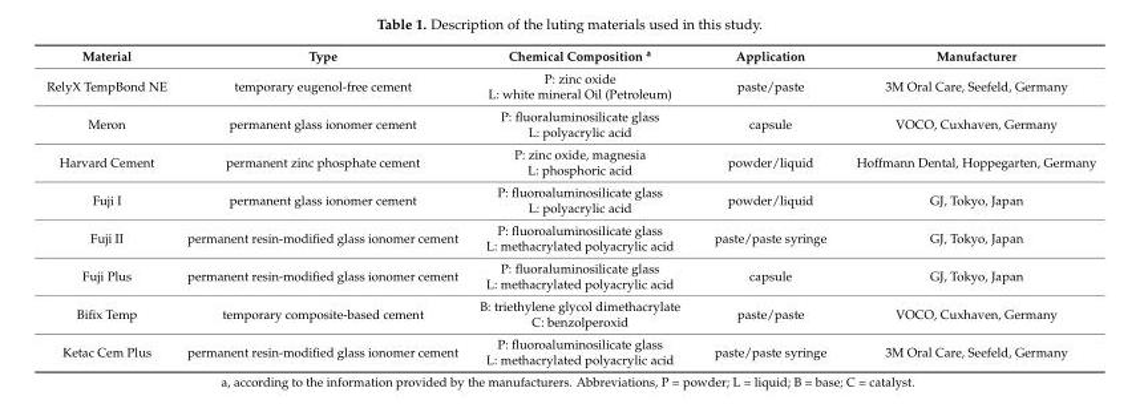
<table><thead><tr><td>Material</td><td>Type</td><td>Chemical Composition <sup>a</sup></td><td>Application</td><td>Manufacturer</td></tr></thead><tbody><tr><td>RelyX TempBond NE</td><td>temporary eugenol-free cement</td><td>P: zinc oxide L: white mineral Oil (Petroleum)</td><td>paste/paste</td><td>3M Oral Care, Seefeld, Germany</td></tr><tr><td>Meron</td><td>permanent glass ionomer cement</td><td>P: fluoraluminosilicate glass L: polyacrylic acid</td><td>capsule</td><td>VOCO, Cuxhaven, Germany</td></tr><tr><td>Harvard Cement</td><td>permanent zinc phosphate cement</td><td>P: zinc oxide, magnesia L: phosphoric acid</td><td>powder/liquid</td><td>Hoffmann Dental, Hoppegarten, Germany</td></tr><tr><td>Fuji I</td><td>permanent glass ionomer cement</td><td>P: fluoroaluminosilicate glass L: polyacrylic acid</td><td>powder/liquid</td><td>GJ, Tokyo, Japan</td></tr><tr><td>Fuji II</td><td>permanent resin-modified glass ionomer cement</td><td>P: fluoroaluminosilicate glass L: methacrylated polyacrylic acid</td><td>paste/paste syringe</td><td>GJ, Tokyo, Japan</td></tr><tr><td>Fuji Plus</td><td>permanent resin-modified glass ionomer cement</td><td>P: fluoraluminosilicate glass L: methacrylated polyacrylic acid</td><td>capsule</td><td>GJ, Tokyo, Japan</td></tr><tr><td>Bifix Temp</td><td>temporary composite-based cement</td><td>B: triethylene glycol dimethacrylate C: benzolperoxid</td><td>paste/paste</td><td>VOCO, Cuxhaven, Germany</td></tr><tr><td>Ketac Cem Plus</td><td>permanent resin-modified glass ionomer cement</td><td>P: fluoroaluminosilicate glass L: methacrylated polyacrylic acid</td><td>paste/paste syringe</td><td>3M Oral Care, Seefeld, Germany</td></tr></tbody></table>